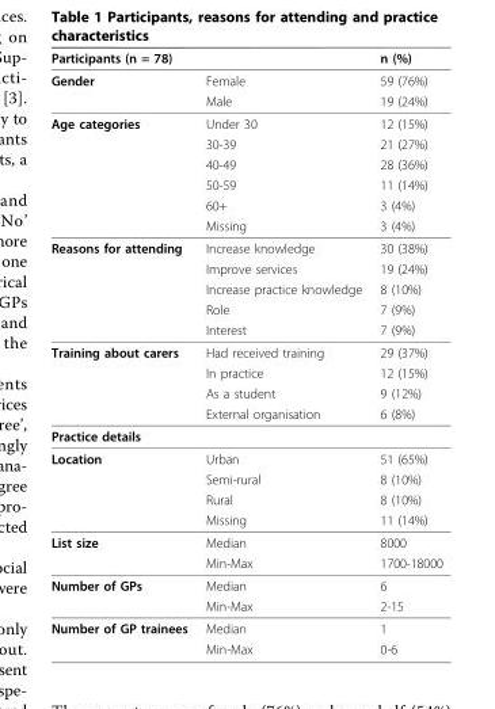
<table><thead><tr><td colspan="2">Participants (n = 78)</td><td rowspan="2">n (%) 59 (76%)</td></tr><tr><td>Gender</td><td>Female</td></tr></thead><tbody><tr><td></td><td>Male</td><td>19 (24%)</td></tr><tr><td rowspan="6">Age categories</td><td>Under 30</td><td>12 (15%)</td></tr><tr><td>30-39</td><td>21 (27%)</td></tr><tr><td>40-49</td><td>28 (36%)</td></tr><tr><td>50-59</td><td>11 (14%)</td></tr><tr><td>60+</td><td>3 (4%)</td></tr><tr><td>Missing</td><td>3 (4%)</td></tr><tr><td rowspan="5">Reasons for attending</td><td>Increase knowledge</td><td>30 (38%)</td></tr><tr><td>Improve services</td><td>19 (24%)</td></tr><tr><td>Increase practice knowledge</td><td>8 (10%)</td></tr><tr><td>Role</td><td>7 (9%)</td></tr><tr><td>Interest</td><td>7 (9%)</td></tr><tr><td rowspan="4">Training about carers</td><td>Had received training</td><td>29 (37%)</td></tr><tr><td>In practice</td><td>12 (15%)</td></tr><tr><td>As a student</td><td>9 (12%)</td></tr><tr><td>External organisation</td><td>6 (8%)</td></tr><tr><td colspan="3">Practice details</td></tr><tr><td rowspan="4">Location</td><td>Urban</td><td>51 (65%)</td></tr><tr><td>Semi-rural</td><td>8 (10%)</td></tr><tr><td>Rural</td><td>8 (10%)</td></tr><tr><td>Missing</td><td>11 (14%)</td></tr><tr><td rowspan="2">List size</td><td>Median</td><td>8000</td></tr><tr><td>Min-Max</td><td>1700-18000</td></tr><tr><td rowspan="2">Number of GPs</td><td>Median</td><td>6</td></tr><tr><td>Min-Max</td><td>2-15</td></tr><tr><td rowspan="2">Number of GP trainees</td><td>Median</td><td>1</td></tr><tr><td>Min-Max</td><td>0-6</td></tr></tbody></table>